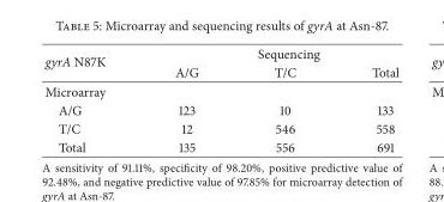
<table><thead><tr><td rowspan="2">gyrA N87K</td><td colspan="3">Sequencing</td></tr><tr><td>A/G</td><td>T/C</td><td>Total</td></tr></thead><tbody><tr><td colspan="4">Microarray</td></tr><tr><td>A/G</td><td>123</td><td>10</td><td>133</td></tr><tr><td>T/C</td><td>12</td><td>546</td><td>558</td></tr><tr><td>Total</td><td>135</td><td>556</td><td>691</td></tr></tbody></table>